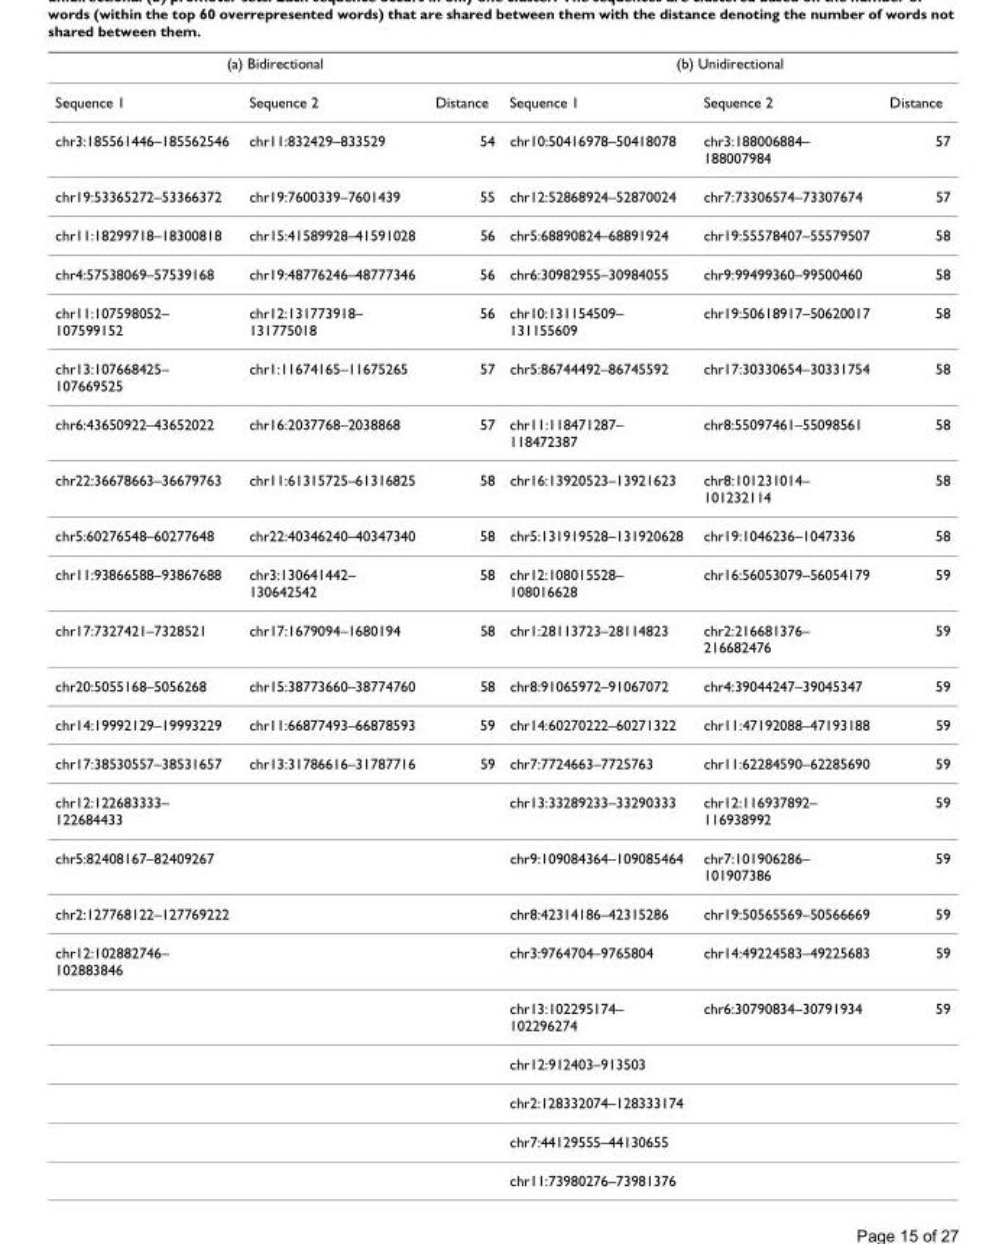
<table><thead><tr><td colspan="3">(a) Bidirectional</td><td colspan="3">(b) Unidirectional</td></tr><tr><td>Sequence 1</td><td>Sequence 2</td><td>Distance</td><td>Sequence 1</td><td>Sequence 2</td><td>Distance</td></tr></thead><tbody><tr><td>chr3:185561446–185562546</td><td>chr11:832429–833529</td><td>54</td><td>chr10:50416978–50418078</td><td>chr3:188006884– 188007984</td><td>57</td></tr><tr><td>chr19:53365272–53366372</td><td>chr19:7600339–7601439</td><td>55</td><td>chr12:52868924–52870024</td><td>chr7:73306574–73307674</td><td>57</td></tr><tr><td>chr11:18299718–18300818</td><td>chr15:41589928–41591028</td><td>56</td><td>chr5:68890824–68891924</td><td>chr19:55578407–55579507</td><td>58</td></tr><tr><td>chr4:57538069–57539168</td><td>chr19:48776246–48777346</td><td>56</td><td>chr6:30982955–30984055</td><td>chr9:99499360–99500460</td><td>58</td></tr><tr><td>chr11:107598052– 107599152</td><td>chr12:131773918– 131775018</td><td>56</td><td>chr10:131154509– 131155609</td><td>chr19:50618917–50620017</td><td>58</td></tr><tr><td>chr13:107668425– 107669525</td><td>chr1:11674165–11675265</td><td>57</td><td>chr5:86744492–86745592</td><td>chr17:30330654–30331754</td><td>58</td></tr><tr><td>chr6:43650922–43652022</td><td>chr16:2037768–2038868</td><td>57</td><td>chr11:118471287– 118472387</td><td>chr8:55097461–55098561</td><td>58</td></tr><tr><td>chr22:36678663–36679763</td><td>chr11:61315725–61316825</td><td>58</td><td>chr16:13920523–13921623</td><td>chr8:101231014– 101232114</td><td>58</td></tr><tr><td>chr5:60276548–60277648</td><td>chr22:40346240–40347340</td><td>58</td><td>chr5:131919528–131920628</td><td>chr19:1046236–1047336</td><td>58</td></tr><tr><td>chr11:93866588–93867688</td><td>chr3:130641442– 130642542</td><td>58</td><td>chr12:108015528– 108016628</td><td>chr16:56053079–56054179</td><td>59</td></tr><tr><td>chr17:7327421–7328521</td><td>chr17:1679094–1680194</td><td>58</td><td>chr1:28113723–28114823</td><td>chr2:216681376– 216682476</td><td>59</td></tr><tr><td>chr20:5055168–5056268</td><td>chr15:38773660–38774760</td><td>58</td><td>chr8:91065972–91067072</td><td>chr4:39044247–39045347</td><td>59</td></tr><tr><td>chr14:19992129–19993229</td><td>chr11:66877493–66878593</td><td>59</td><td>chr14:60270222–60271322</td><td>chr11:47192088–47193188</td><td>59</td></tr><tr><td>chr17:38530557–38531657</td><td>chr13:31786616–31787716</td><td>59</td><td>chr7:7724663–7725763</td><td>chr11:62284590–62285690</td><td>59</td></tr><tr><td>chr12:122683333– 122684433</td><td></td><td></td><td>chr13:33289233–33290333</td><td>chr12:116937892– 116938992</td><td>59</td></tr><tr><td>chr5:82408167–82409267</td><td></td><td></td><td>chr9:109084364–109085464</td><td>chr7:101906286– 101907386</td><td>59</td></tr><tr><td>chr2:127768122–127769222</td><td></td><td></td><td>chr8:42314186–42315286</td><td>chr19:50565569–50566669</td><td>59</td></tr><tr><td rowspan="6">chr12:102882746– 102883846</td><td></td><td></td><td>chr3:9764704–9765804</td><td>chr14:49224583–49225683</td><td>59</td></tr><tr><td></td><td></td><td>chr13:102295174– 102296274</td><td>chr6:30790834–30791934</td><td>59</td></tr><tr><td></td><td></td><td>chr12:912403–913503</td><td></td><td></td></tr><tr><td></td><td></td><td>chr2:128332074–128333174</td><td></td><td></td></tr><tr><td></td><td></td><td>chr7:44129555–44130655</td><td></td><td></td></tr><tr><td></td><td></td><td>chr11:73980276–73981376</td><td></td><td></td></tr></tbody></table>